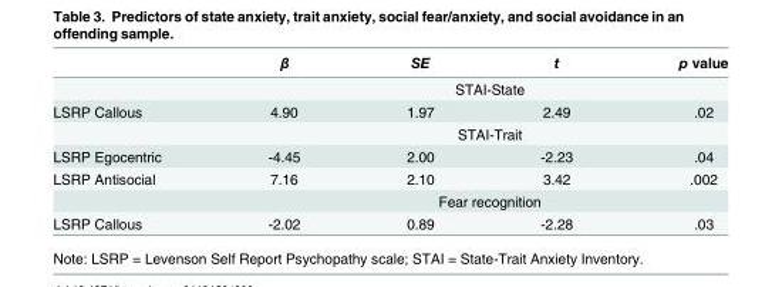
<table><thead><tr><td></td><td>β</td><td>SE</td><td>t</td><td>p value</td></tr></thead><tbody><tr><td></td><td></td><td colspan="2">STAI-State</td><td></td></tr><tr><td rowspan="2">LSRP Callous</td><td>4.90</td><td>1.97</td><td>2.49</td><td>.02</td></tr><tr><td></td><td colspan="2">STAI-Trait</td><td></td></tr><tr><td>LSRP Egocentric</td><td>-4.45</td><td>2.00</td><td>-2.23</td><td>.04</td></tr><tr><td rowspan="2">LSRP Antisocial</td><td>7.16</td><td>2.10</td><td>3.42</td><td>.002</td></tr><tr><td></td><td colspan="2">Fear recognition</td><td></td></tr><tr><td>LSRP Callous</td><td>-2.02</td><td>0.89</td><td>-2.28</td><td>.03</td></tr></tbody></table>